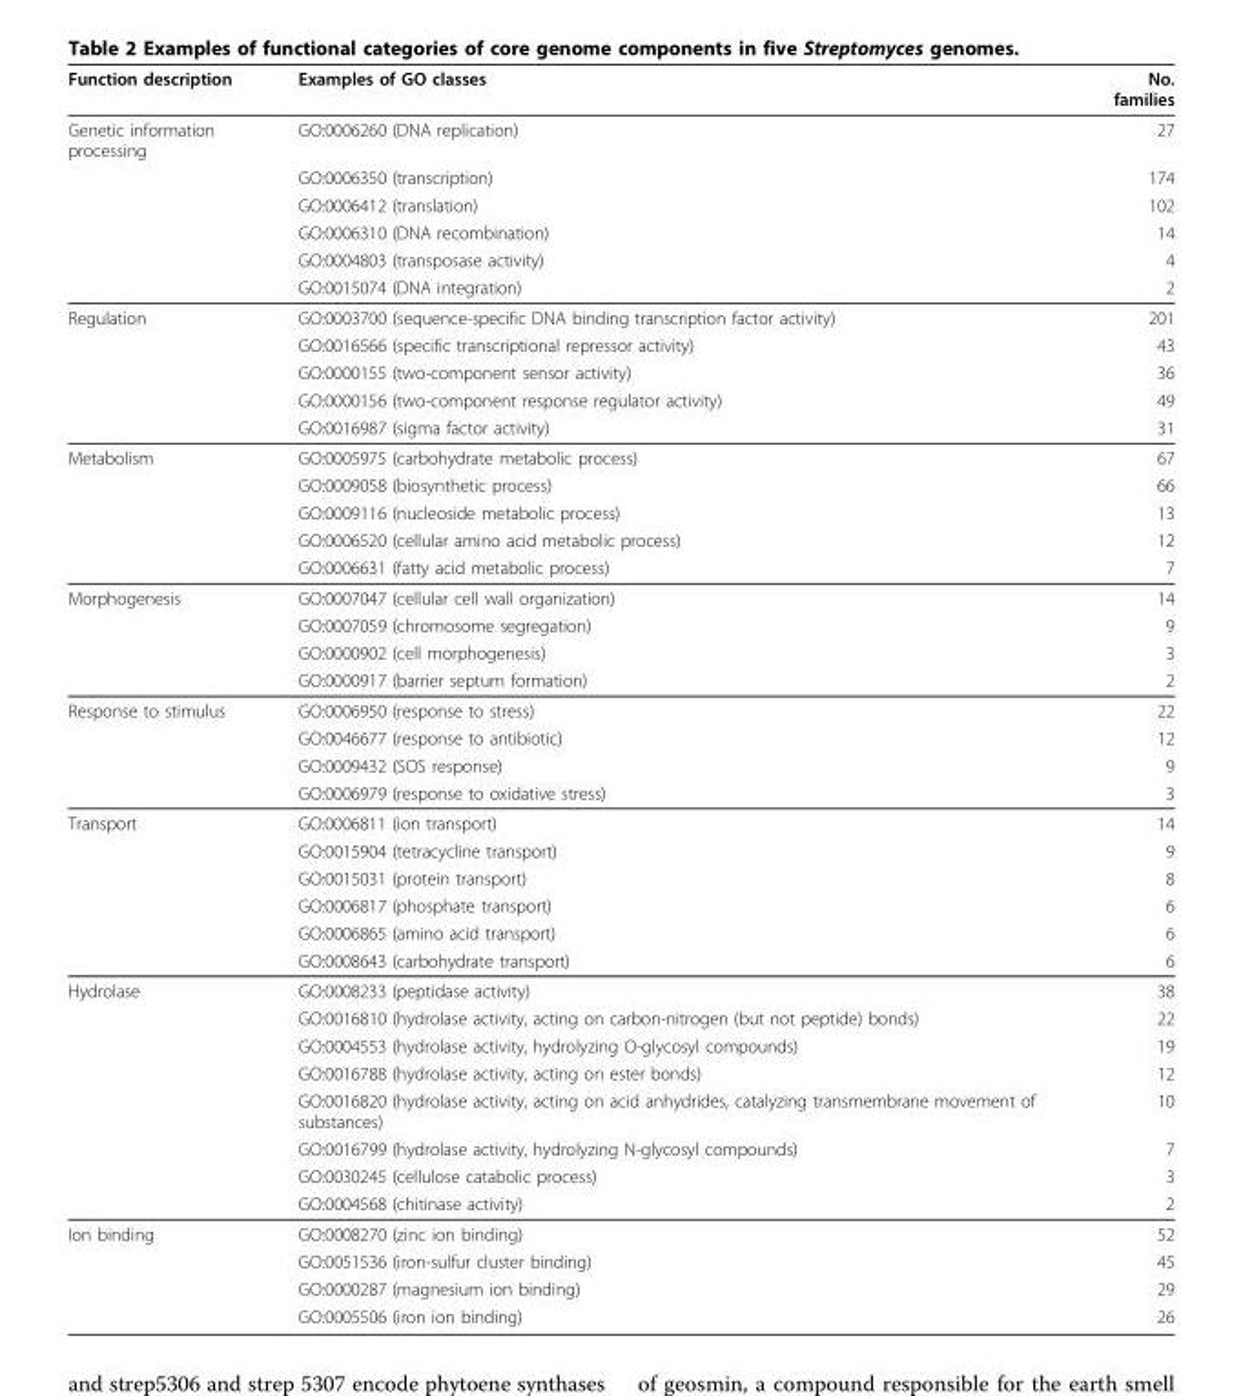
<table><thead><tr><td>Function description</td><td>Examples of GO classes</td><td>No. families</td></tr></thead><tbody><tr><td rowspan="6">Genetic information processing</td><td>GO:0006260 (DNA replication)</td><td>27</td></tr><tr><td>GO:0006350 (transcription)</td><td>174</td></tr><tr><td>GO:0006412 (translation)</td><td>102</td></tr><tr><td>GO:0006310 (DNA recombination)</td><td>14</td></tr><tr><td>GO:0004803 (transposase activity)</td><td>4</td></tr><tr><td>GO:0015074 (DNA integration)</td><td>2</td></tr><tr><td rowspan="5">Regulation</td><td>GO:0003700 (sequence-specific DNA binding transcription factor activity)</td><td>201</td></tr><tr><td>GO:0016566 (specific transcriptional repressor activity)</td><td>43</td></tr><tr><td>GO:0000155 (two-component sensor activity)</td><td>36</td></tr><tr><td>GO:0000156 (two-component response regulator activity)</td><td>49</td></tr><tr><td>GO:0016987 (sigma factor activity)</td><td>31</td></tr><tr><td rowspan="5">Metabolism</td><td>GO:0005975 (carbohydrate metabolic process)</td><td>67</td></tr><tr><td>GO:0009058 (biosynthetic process)</td><td>66</td></tr><tr><td>GO:0009116 (nucleoside metabolic process)</td><td>13</td></tr><tr><td>GO:0006520 (cellular amino acid metabolic process)</td><td>12</td></tr><tr><td>GO:0006631 (fatty acid metabolic process)</td><td>7</td></tr><tr><td rowspan="4">Morphogenesis</td><td>GO:0007047 (cellular cell wall organization)</td><td>14</td></tr><tr><td>GO:0007059 (chromosome segregation)</td><td>9</td></tr><tr><td>GO:0000902 (cell morphogenesis)</td><td>3</td></tr><tr><td>GO:0000917 (barrier septum formation)</td><td>2</td></tr><tr><td rowspan="4">Response to stimulus</td><td>GO:0006950 (response to stress)</td><td>22</td></tr><tr><td>GO:0046677 (response to antibiotic)</td><td>12</td></tr><tr><td>GO:0009432 (SOS response)</td><td>9</td></tr><tr><td>GO:0006979 (response to oxidative stress)</td><td>3</td></tr><tr><td rowspan="6">Transport</td><td>GO:0006811 (ion transport)</td><td>14</td></tr><tr><td>GO:0015904 (tetracycline transport)</td><td>9</td></tr><tr><td>GO:0015031 (protein transport)</td><td>8</td></tr><tr><td>GO:0006817 (phosphate transport)</td><td>6</td></tr><tr><td>GO:0006865 (amino acid transport)</td><td>6</td></tr><tr><td>GO:0008643 (carbohydrate transport)</td><td>6</td></tr><tr><td rowspan="8">Hydrolase</td><td>GO:0008233 (peptidase activity)</td><td>38</td></tr><tr><td>GO:0016810 (hydrolase activity, acting on carbon-nitrogen (but not peptide) bonds)</td><td>22</td></tr><tr><td>GO:0004553 (hydrolase activity, hydrolyzing O-glycosyl compounds)</td><td>19</td></tr><tr><td>GO:0016788 (hydrolase activity, acting on ester bonds)</td><td>12</td></tr><tr><td>GO:0016820 (hydrolase activity, acting on acid anhydrides, catalyzing transmembrane movement of substances)</td><td>10</td></tr><tr><td>GO:0016799 (hydrolase activity, hydrolyzing N-glycosyl compounds)</td><td>7</td></tr><tr><td>GO:0030245 (cellulose catabolic process)</td><td>3</td></tr><tr><td>GO:0004568 (chitinase activity)</td><td>2</td></tr><tr><td rowspan="4">Ion binding</td><td>GO:0008270 (zinc ion binding)</td><td>52</td></tr><tr><td>GO:0051536 (iron-sulfur cluster binding)</td><td>45</td></tr><tr><td>GO:0000287 (magnesium ion binding)</td><td>29</td></tr><tr><td>GO:0005506 (iron ion binding)</td><td>26</td></tr></tbody></table>